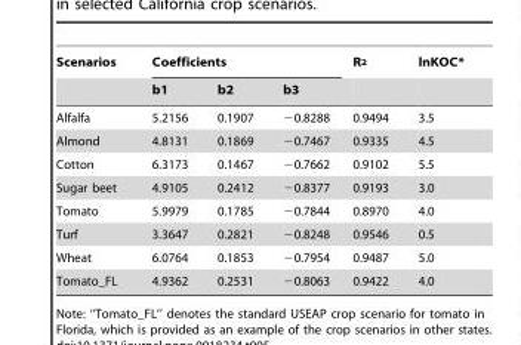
<table><thead><tr><td rowspan="2">Scenarios</td><td colspan="3">Coefficients</td><td rowspan="2">R<sup>2</sup></td><td rowspan="2">lnKOC*</td></tr><tr><td>b1</td><td>b2</td><td>b3</td></tr></thead><tbody><tr><td>Alfalfa</td><td>5.2156</td><td>0.1907</td><td>−0.8288</td><td>0.9494</td><td>3.5</td></tr><tr><td>Almond</td><td>4.8131</td><td>0.1869</td><td>−0.7467</td><td>0.9335</td><td>4.5</td></tr><tr><td>Cotton</td><td>6.3173</td><td>0.1467</td><td>−0.7662</td><td>0.9102</td><td>5.5</td></tr><tr><td>Sugar beet</td><td>4.9105</td><td>0.2412</td><td>−0.8377</td><td>0.9193</td><td>3.0</td></tr><tr><td>Tomato</td><td>5.9979</td><td>0.1785</td><td>−0.7844</td><td>0.8970</td><td>4.0</td></tr><tr><td>Turf</td><td>3.3647</td><td>0.2821</td><td>−0.8248</td><td>0.9546</td><td>0.5</td></tr><tr><td>Wheat</td><td>6.0764</td><td>0.1853</td><td>−0.7954</td><td>0.9487</td><td>5.0</td></tr><tr><td>Tomato_FL</td><td>4.9362</td><td>0.2531</td><td>−0.8063</td><td>0.9422</td><td>4.0</td></tr></tbody></table>